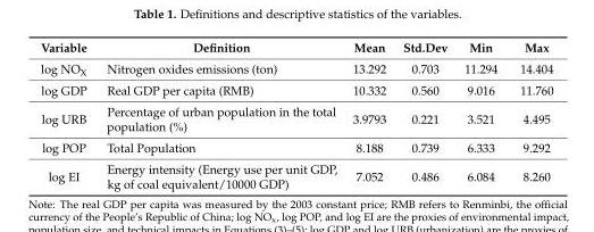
<table><thead><tr><td>Variable</td><td>Definition</td><td>Mean</td><td>Std.Dev</td><td>Min</td><td>Max</td></tr></thead><tbody><tr><td>log NO<sub>X</sub></td><td>Nitrogen oxides emissions (ton)</td><td>13.292</td><td>0.703</td><td>11.294</td><td>14.404</td></tr><tr><td>log GDP</td><td>Real GDP per capita (RMB)</td><td>10.332</td><td>0.560</td><td>9.016</td><td>11.760</td></tr><tr><td>log URB</td><td>Percentage of urban population in the total population (%)</td><td>3.9793</td><td>0.221</td><td>3.521</td><td>4.495</td></tr><tr><td>log POP</td><td>Total Population</td><td>8.188</td><td>0.739</td><td>6.333</td><td>9.292</td></tr><tr><td>log EI</td><td>Energy intensity (Energy use per unit GDP, kg of coal equivalent/10000 GDP)</td><td>7.052</td><td>0.486</td><td>6.084</td><td>8.260</td></tr></tbody></table>